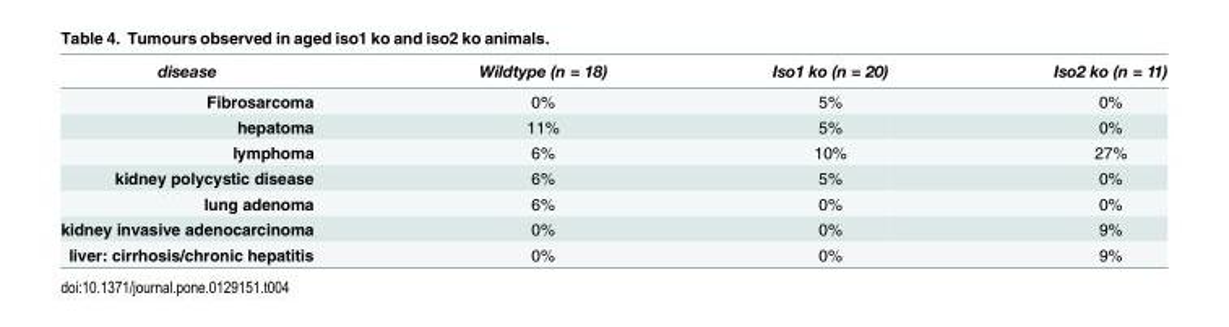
<table><thead><tr><td>disease</td><td>Wildtype (n = 18)</td><td>Iso1 ko (n = 20)</td><td>Iso2 ko (n = 11)</td></tr></thead><tbody><tr><td>Fibrosarcoma</td><td>0%</td><td>5%</td><td>0%</td></tr><tr><td>hepatoma</td><td>11%</td><td>5%</td><td>0%</td></tr><tr><td>lymphoma</td><td>6%</td><td>10%</td><td>27%</td></tr><tr><td>kidney polycystic disease</td><td>6%</td><td>5%</td><td>0%</td></tr><tr><td>lung adenoma</td><td>6%</td><td>0%</td><td>0%</td></tr><tr><td>kidney invasive adenocarcinoma</td><td>0%</td><td>0%</td><td>9%</td></tr><tr><td>liver: cirrhosis/chronic hepatitis</td><td>0%</td><td>0%</td><td>9%</td></tr></tbody></table>